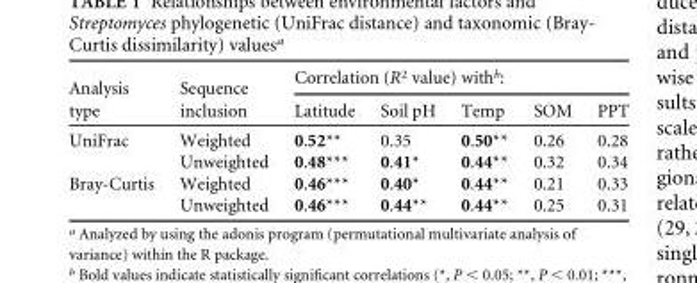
<table><thead><tr><td rowspan="2">Analysis type</td><td rowspan="2">Sequence inclusion</td><td colspan="5">Correlation (R<sup>2</sup> value) with<sup>b</sup>:</td></tr><tr><td>Latitude</td><td>Soil pH</td><td>Temp</td><td>SOM</td><td>PPT</td></tr></thead><tbody><tr><td rowspan="2">UniFrac</td><td>Weighted</td><td>0.52**</td><td>0.35</td><td>0.50**</td><td>0.26</td><td>0.28</td></tr><tr><td>Unweighted</td><td>0.48***</td><td>0.41*</td><td>0.44**</td><td>0.32</td><td>0.34</td></tr><tr><td rowspan="2">Bray-Curtis</td><td>Weighted</td><td>0.46***</td><td>0.40*</td><td>0.44**</td><td>0.21</td><td>0.33</td></tr><tr><td>Unweighted</td><td>0.46***</td><td>0.44**</td><td>0.44**</td><td>0.25</td><td>0.31</td></tr></tbody></table>